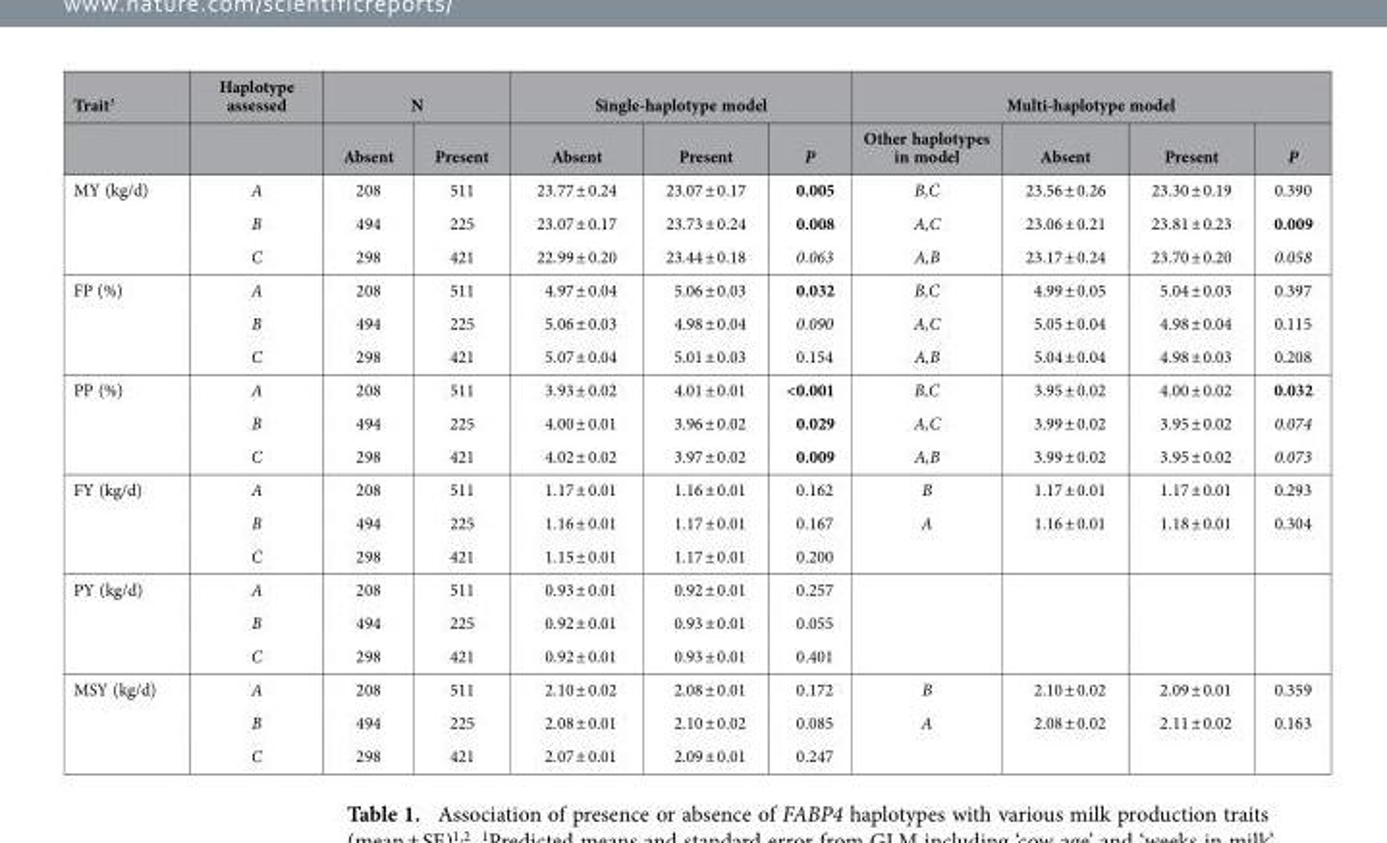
<table><thead><tr><td rowspan="2">Trait<sup>3</sup></td><td rowspan="2">Haplotype assessed</td><td colspan="2">N</td><td colspan="3">Single-haplotype model</td><td colspan="4">Multi-haplotype model</td></tr><tr><td>Absent</td><td>Present</td><td>Absent</td><td>Present</td><td>P</td><td>Other haplotypes in model</td><td>Absent</td><td>Present</td><td>P</td></tr></thead><tbody><tr><td rowspan="3">MY (kg/d)</td><td>A</td><td>208</td><td>511</td><td>23.77 ± 0.24</td><td>23.07 ± 0.17</td><td>0.005</td><td>B,C</td><td>23.56 ± 0.26</td><td>23.30 ± 0.19</td><td>0.390</td></tr><tr><td>B</td><td>494</td><td>225</td><td>23.07 ± 0.17</td><td>23.73 ± 0.24</td><td>0.008</td><td>A,C</td><td>23.06 ± 0.21</td><td>23.81 ± 0.23</td><td>0.009</td></tr><tr><td>C</td><td>298</td><td>421</td><td>22.99 ± 0.20</td><td>23.44 ± 0.18</td><td>0.063</td><td>A,B</td><td>23.17 ± 0.24</td><td>23.70 ± 0.20</td><td>0.058</td></tr><tr><td rowspan="3">FP (%)</td><td>A</td><td>208</td><td>511</td><td>4.97 ± 0.04</td><td>5.06 ± 0.03</td><td>0.032</td><td>B,C</td><td>4.99 ± 0.05</td><td>5.04 ± 0.03</td><td>0.397</td></tr><tr><td>B</td><td>494</td><td>225</td><td>5.06 ± 0.03</td><td>4.98 ± 0.04</td><td>0.090</td><td>A,C</td><td>5.05 ± 0.04</td><td>4.98 ± 0.04</td><td>0.115</td></tr><tr><td>C</td><td>298</td><td>421</td><td>5.07 ± 0.04</td><td>5.01 ± 0.03</td><td>0.154</td><td>A,B</td><td>5.04 ± 0.04</td><td>4.98 ± 0.03</td><td>0.208</td></tr><tr><td rowspan="3">PP (%)</td><td>A</td><td>208</td><td>511</td><td>3.93 ± 0.02</td><td>4.01 ± 0.01</td><td>&lt;0.001</td><td>B,C</td><td>3.95 ± 0.02</td><td>4.00 ± 0.02</td><td>0.032</td></tr><tr><td>B</td><td>494</td><td>225</td><td>4.00 ± 0.01</td><td>3.96 ± 0.02</td><td>0.029</td><td>A,C</td><td>3.99 ± 0.02</td><td>3.95 ± 0.02</td><td>0.074</td></tr><tr><td>C</td><td>298</td><td>421</td><td>4.02 ± 0.02</td><td>3.97 ± 0.02</td><td>0.009</td><td>A,B</td><td>3.99 ± 0.02</td><td>3.95 ± 0.02</td><td>0.073</td></tr><tr><td rowspan="3">FY (kg/d)</td><td>A</td><td>208</td><td>511</td><td>1.17 ± 0.01</td><td>1.16 ± 0.01</td><td>0.162</td><td>B</td><td>1.17 ± 0.01</td><td>1.17 ± 0.01</td><td>0.293</td></tr><tr><td>B</td><td>494</td><td>225</td><td>1.16 ± 0.01</td><td>1.17 ± 0.01</td><td>0.167</td><td>A</td><td>1.16 ± 0.01</td><td>1.18 ± 0.01</td><td>0.304</td></tr><tr><td>C</td><td>298</td><td>421</td><td>1.15 ± 0.01</td><td>1.17 ± 0.01</td><td>0.200</td><td></td><td></td><td></td><td></td></tr><tr><td rowspan="3">PY (kg/d)</td><td>A</td><td>208</td><td>511</td><td>0.93 ± 0.01</td><td>0.92 ± 0.01</td><td>0.257</td><td></td><td></td><td></td><td></td></tr><tr><td>B</td><td>494</td><td>225</td><td>0.92 ± 0.01</td><td>0.93 ± 0.01</td><td>0.055</td><td></td><td></td><td></td><td></td></tr><tr><td>C</td><td>298</td><td>421</td><td>0.92 ± 0.01</td><td>0.93 ± 0.01</td><td>0.401</td><td></td><td></td><td></td><td></td></tr><tr><td rowspan="3">MSY (kg/d)</td><td>A</td><td>208</td><td>511</td><td>2.10 ± 0.02</td><td>2.08 ± 0.01</td><td>0.172</td><td>B</td><td>2.10 ± 0.02</td><td>2.09 ± 0.01</td><td>0.359</td></tr><tr><td>B</td><td>494</td><td>225</td><td>2.08 ± 0.01</td><td>2.10 ± 0.02</td><td>0.085</td><td>A</td><td>2.08 ± 0.02</td><td>2.11 ± 0.02</td><td>0.163</td></tr><tr><td>C</td><td>298</td><td>421</td><td>2.07 ± 0.01</td><td>2.09 ± 0.01</td><td>0.247</td><td></td><td></td><td></td><td></td></tr></tbody></table>